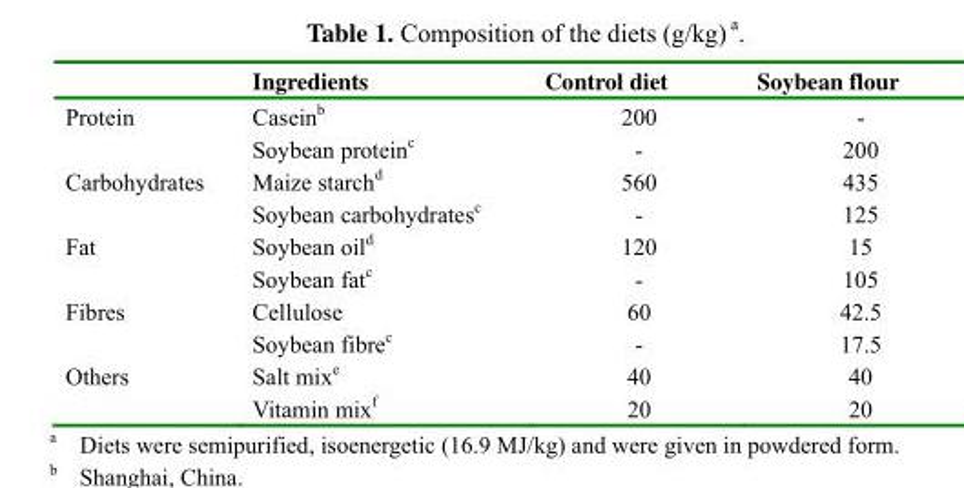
<table><thead><tr><td></td><td>Ingredients</td><td>Control diet</td><td>Soybean flour</td></tr></thead><tbody><tr><td rowspan="2">Protein</td><td>Casein<sup>b</sup></td><td>200</td><td>-</td></tr><tr><td>Soybean protein<sup>c</sup></td><td>-</td><td>200</td></tr><tr><td rowspan="2">Carbohydrates</td><td>Maize starch<sup>d</sup></td><td>560</td><td>435</td></tr><tr><td>Soybean carbohydrates<sup>c</sup></td><td>-</td><td>125</td></tr><tr><td rowspan="2">Fat</td><td>Soybean oil<sup>d</sup></td><td>120</td><td>15</td></tr><tr><td>Soybean fat<sup>c</sup></td><td>-</td><td>105</td></tr><tr><td rowspan="2">Fibres</td><td>Cellulose</td><td>60</td><td>42.5</td></tr><tr><td>Soybean fibre<sup>c</sup></td><td>-</td><td>17.5</td></tr><tr><td rowspan="2">Others</td><td>Salt mix<sup>e</sup></td><td>40</td><td>40</td></tr><tr><td>Vitamin mix<sup>f</sup></td><td>20</td><td>20</td></tr></tbody></table>